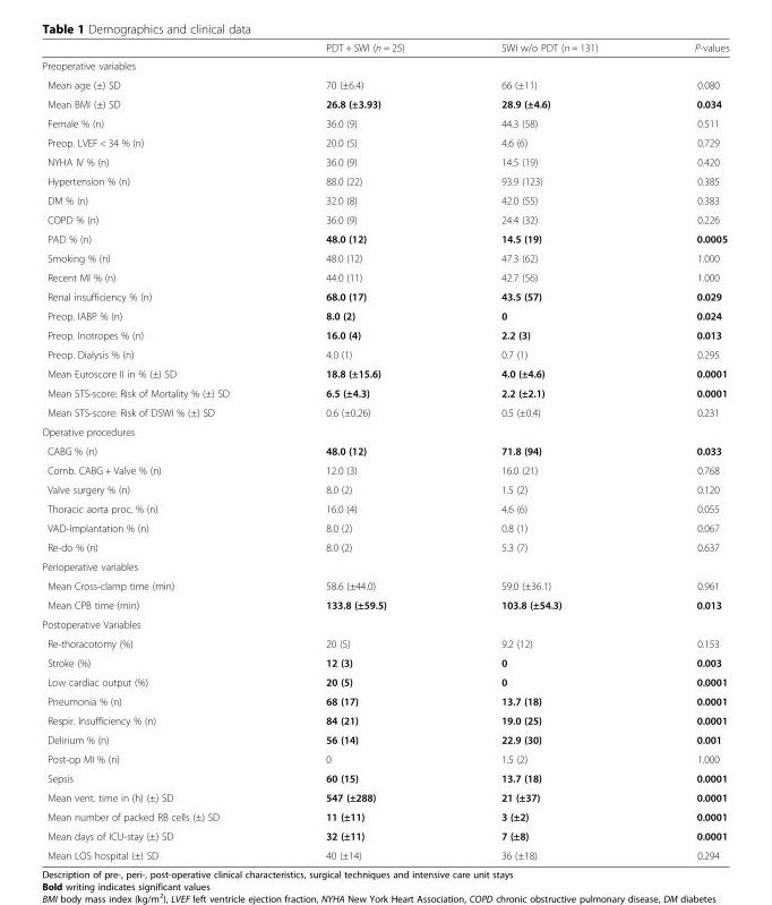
<table><thead><tr><td></td><td>PDT + SWI (n = 25)</td><td>SWI w/o PDT (n = 131)</td><td>P-values</td></tr></thead><tbody><tr><td colspan="4">Preoperative variables</td></tr><tr><td>Mean age (±) SD</td><td>70 (±6.4)</td><td>66 (±11)</td><td>0.080</td></tr><tr><td>Mean BMI (±) SD</td><td>26.8 (±3.93)</td><td>28.9 (±4.6)</td><td>0.034</td></tr><tr><td>Female % (n)</td><td>36.0 (9)</td><td>44.3 (58)</td><td>0.511</td></tr><tr><td>Preop. LVEF &lt; 34 % (n)</td><td>20.0 (5)</td><td>4.6 (6)</td><td>0.729</td></tr><tr><td>NYHA IV % (n)</td><td>36.0 (9)</td><td>14.5 (19)</td><td>0.420</td></tr><tr><td>Hypertension % (n)</td><td>88.0 (22)</td><td>93.9 (123)</td><td>0.385</td></tr><tr><td>DM % (n)</td><td>32.0 (8)</td><td>42.0 (55)</td><td>0.383</td></tr><tr><td>COPD % (n)</td><td>36.0 (9)</td><td>24.4 (32)</td><td>0.226</td></tr><tr><td>PAD % (n)</td><td>48.0 (12)</td><td>14.5 (19)</td><td>0.0005</td></tr><tr><td>Smoking % (n)</td><td>48.0 (12)</td><td>47.3 (62)</td><td>1.000</td></tr><tr><td>Recent MI % (n)</td><td>44.0 (11)</td><td>42.7 (56)</td><td>1.000</td></tr><tr><td>Renal insufficiency % (n)</td><td>68.0 (17)</td><td>43.5 (57)</td><td>0.029</td></tr><tr><td>Preop. IABP % (n)</td><td>8.0 (2)</td><td>0</td><td>0.024</td></tr><tr><td>Preop. Inotropes % (n)</td><td>16.0 (4)</td><td>2.2 (3)</td><td>0.013</td></tr><tr><td>Preop. Dialysis % (n)</td><td>4.0 (1)</td><td>0.7 (1)</td><td>0.295</td></tr><tr><td>Mean Euroscore II in % (±) SD</td><td>18.8 (±15.6)</td><td>4.0 (±4.6)</td><td>0.0001</td></tr><tr><td>Mean STS-score: Risk of Mortality % (±) SD</td><td>6.5 (±4.3)</td><td>2.2 (±2.1)</td><td>0.0001</td></tr><tr><td>Mean STS-score: Risk of DSWI % (±) SD</td><td>0.6 (±0.26)</td><td>0.5 (±0.4)</td><td>0.231</td></tr><tr><td colspan="4">Operative procedures</td></tr><tr><td>CABG % (n)</td><td>48.0 (12)</td><td>71.8 (94)</td><td>0.033</td></tr><tr><td>Comb. CABG + Valve % (n)</td><td>12.0 (3)</td><td>16.0 (21)</td><td>0.768</td></tr><tr><td>Valve surgery % (n)</td><td>8.0 (2)</td><td>1.5 (2)</td><td>0.120</td></tr><tr><td>Thoracic aorta proc. % (n)</td><td>16.0 (4)</td><td>4.6 (6)</td><td>0.055</td></tr><tr><td>VAD-Implantation % (n)</td><td>8.0 (2)</td><td>0.8 (1)</td><td>0.067</td></tr><tr><td>Re-do % (n)</td><td>8.0 (2)</td><td>5.3 (7)</td><td>0.637</td></tr><tr><td colspan="4">Perioperative variables</td></tr><tr><td>Mean Cross-clamp time (min)</td><td>58.6 (±44.0)</td><td>59.0 (±36.1)</td><td>0.961</td></tr><tr><td>Mean CPB time (min)</td><td>133.8 (±59.5)</td><td>103.8 (±54.3)</td><td>0.013</td></tr><tr><td colspan="4">Postoperative Variables</td></tr><tr><td>Re-thoracotomy (%)</td><td>20 (5)</td><td>9.2 (12)</td><td>0.153</td></tr><tr><td>Stroke (%)</td><td>12 (3)</td><td>0</td><td>0.003</td></tr><tr><td>Low cardiac output (%)</td><td>20 (5)</td><td>0</td><td>0.0001</td></tr><tr><td>Pneumonia % (n)</td><td>68 (17)</td><td>13.7 (18)</td><td>0.0001</td></tr><tr><td>Respir. Insufficiency % (n)</td><td>84 (21)</td><td>19.0 (25)</td><td>0.0001</td></tr><tr><td>Delirium % (n)</td><td>56 (14)</td><td>22.9 (30)</td><td>0.001</td></tr><tr><td>Post-op MI % (n)</td><td>0</td><td>1.5 (2)</td><td>1.000</td></tr><tr><td>Sepsis</td><td>60 (15)</td><td>13.7 (18)</td><td>0.0001</td></tr><tr><td>Mean vent. time in (h) (±) SD</td><td>547 (±288)</td><td>21 (±37)</td><td>0.0001</td></tr><tr><td>Mean number of packed RB cells (±) SD</td><td>11 (±11)</td><td>3 (±2)</td><td>0.0001</td></tr><tr><td>Mean days of ICU-stay (±) SD</td><td>32 (±11)</td><td>7 (±8)</td><td>0.0001</td></tr><tr><td>Mean LOS hospital (±) SD</td><td>40 (±14)</td><td>36 (±18)</td><td>0.294</td></tr></tbody></table>